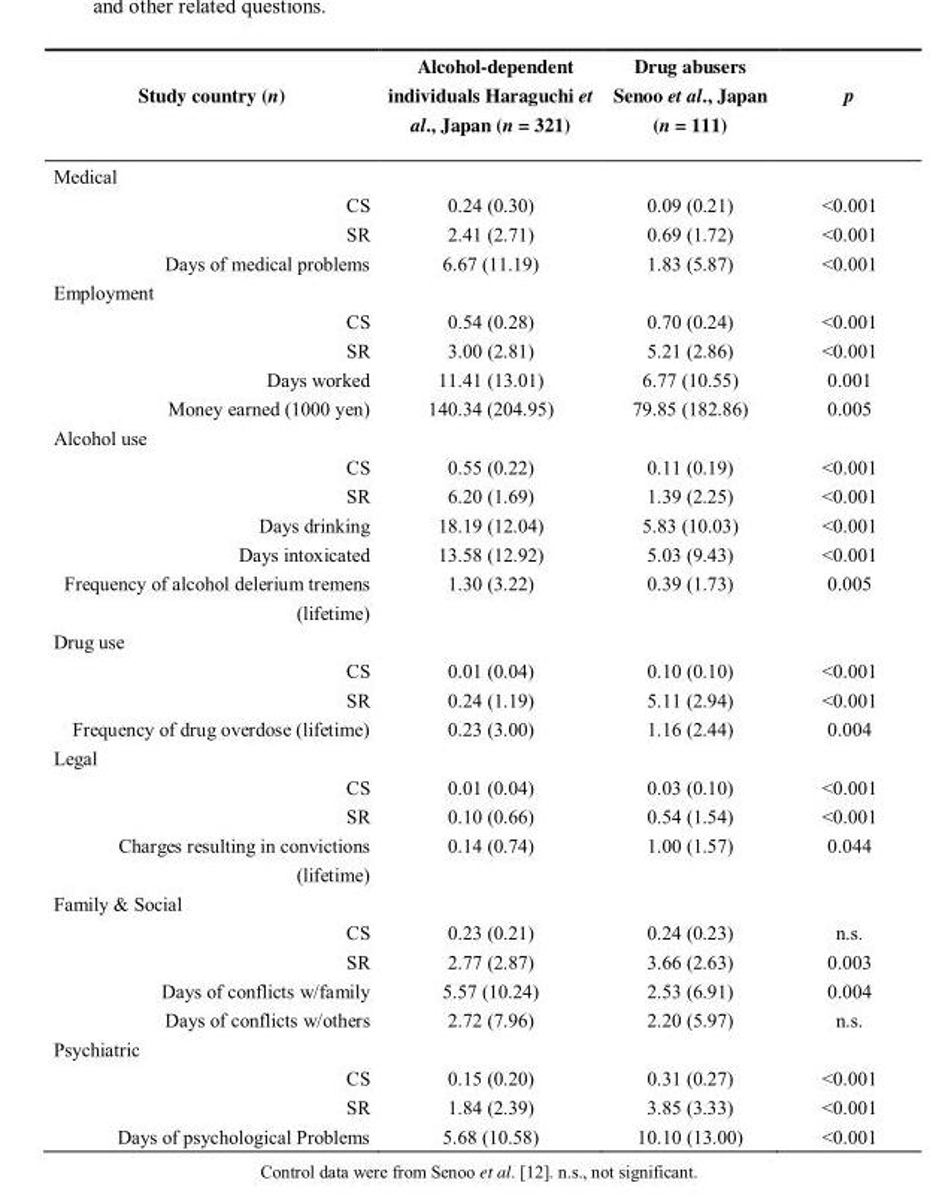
<table><thead><tr><td>Study country (n)</td><td>Alcohol-dependent individuals Haraguchi et al., Japan (n = 321)</td><td>Drug abusers Senoo et al., Japan (n = 111)</td><td>p</td></tr></thead><tbody><tr><td colspan="4">Medical</td></tr><tr><td>CS</td><td>0.24 (0.30)</td><td>0.09 (0.21)</td><td>&lt;0.001</td></tr><tr><td>SR</td><td>2.41 (2.71)</td><td>0.69 (1.72)</td><td>&lt;0.001</td></tr><tr><td>Days of medical problems</td><td>6.67 (11.19)</td><td>1.83 (5.87)</td><td>&lt;0.001</td></tr><tr><td colspan="4">Employment</td></tr><tr><td>CS</td><td>0.54 (0.28)</td><td>0.70 (0.24)</td><td>&lt;0.001</td></tr><tr><td>SR</td><td>3.00 (2.81)</td><td>5.21 (2.86)</td><td>&lt;0.001</td></tr><tr><td>Days worked</td><td>11.41 (13.01)</td><td>6.77 (10.55)</td><td>0.001</td></tr><tr><td>Money earned (1000 yen)</td><td>140.34 (204.95)</td><td>79.85 (182.86)</td><td>0.005</td></tr><tr><td colspan="4">Alcohol use</td></tr><tr><td>CS</td><td>0.55 (0.22)</td><td>0.11 (0.19)</td><td>&lt;0.001</td></tr><tr><td>SR</td><td>6.20 (1.69)</td><td>1.39 (2.25)</td><td>&lt;0.001</td></tr><tr><td>Days drinking</td><td>18.19 (12.04)</td><td>5.83 (10.03)</td><td>&lt;0.001</td></tr><tr><td>Days intoxicated</td><td>13.58 (12.92)</td><td>5.03 (9.43)</td><td>&lt;0.001</td></tr><tr><td>Frequency of alcohol delerium tremens (lifetime)</td><td>1.30 (3.22)</td><td>0.39 (1.73)</td><td>0.005</td></tr><tr><td colspan="4">Drug use</td></tr><tr><td>CS</td><td>0.01 (0.04)</td><td>0.10 (0.10)</td><td>&lt;0.001</td></tr><tr><td>SR</td><td>0.24 (1.19)</td><td>5.11 (2.94)</td><td>&lt;0.001</td></tr><tr><td>Frequency of drug overdose (lifetime)</td><td>0.23 (3.00)</td><td>1.16 (2.44)</td><td>0.004</td></tr><tr><td colspan="4">Legal</td></tr><tr><td>CS</td><td>0.01 (0.04)</td><td>0.03 (0.10)</td><td>&lt;0.001</td></tr><tr><td>SR</td><td>0.10 (0.66)</td><td>0.54 (1.54)</td><td>&lt;0.001</td></tr><tr><td>Charges resulting in convictions (lifetime)</td><td>0.14 (0.74)</td><td>1.00 (1.57)</td><td>0.044</td></tr><tr><td colspan="4">Family &amp; Social</td></tr><tr><td>CS</td><td>0.23 (0.21)</td><td>0.24 (0.23)</td><td>n.s.</td></tr><tr><td>SR</td><td>2.77 (2.87)</td><td>3.66 (2.63)</td><td>0.003</td></tr><tr><td>Days of conflicts w/family</td><td>5.57 (10.24)</td><td>2.53 (6.91)</td><td>0.004</td></tr><tr><td>Days of conflicts w/others</td><td>2.72 (7.96)</td><td>2.20 (5.97)</td><td>n.s.</td></tr><tr><td colspan="4">Psychiatric</td></tr><tr><td>CS</td><td>0.15 (0.20)</td><td>0.31 (0.27)</td><td>&lt;0.001</td></tr><tr><td>SR</td><td>1.84 (2.39)</td><td>3.85 (3.33)</td><td>&lt;0.001</td></tr><tr><td>Days of psychological Problems</td><td>5.68 (10.58)</td><td>10.10 (13.00)</td><td>&lt;0.001</td></tr></tbody></table>